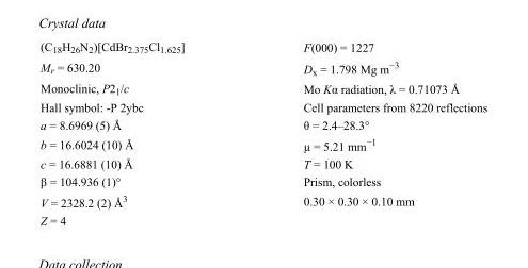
<table><tbody><tr><td>(C<sub>18</sub>H<sub>26</sub>N<sub>2</sub>)[CdBr<sub>2.375</sub>Cl<sub>1.625</sub>]</td><td>F(000) = 1227</td></tr><tr><td>M<sub>r</sub> = 630.20</td><td>D<sub>x</sub> = 1.798 Mg m<sup>−3</sup></td></tr><tr><td>Monoclinic, P2<sub>1</sub>/c</td><td>Mo Kα radiation, λ = 0.71073 Å</td></tr><tr><td>Hall symbol: -P 2ybc</td><td>Cell parameters from 8220 reflections</td></tr><tr><td>a = 8.6969 (5) Å</td><td>θ = 2.4–28.3°</td></tr><tr><td>b = 16.6024 (10) Å</td><td>µ = 5.21 mm<sup>−1</sup></td></tr><tr><td>c = 16.6881 (10) Å</td><td>T = 100 K</td></tr><tr><td>β = 104.936 (1)°</td><td>Prism, colorless</td></tr><tr><td>V = 2328.2 (2) Å<sup>3</sup></td><td>0.30 × 0.30 × 0.10 mm</td></tr><tr><td>Z = 4</td><td></td></tr></tbody></table>